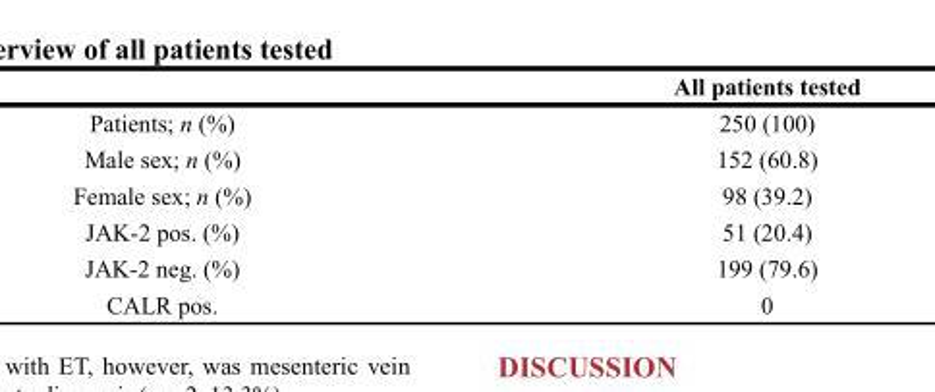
<table><thead><tr><td></td><td>All patients tested</td></tr></thead><tbody><tr><td>Patients; n (%)</td><td>250 (100)</td></tr><tr><td>Male sex; n (%)</td><td>152 (60.8)</td></tr><tr><td>Female sex; n (%)</td><td>98 (39.2)</td></tr><tr><td>JAK-2 pos. (%)</td><td>51 (20.4)</td></tr><tr><td>JAK-2 neg. (%)</td><td>199 (79.6)</td></tr><tr><td>CALR pos.</td><td>0</td></tr></tbody></table>